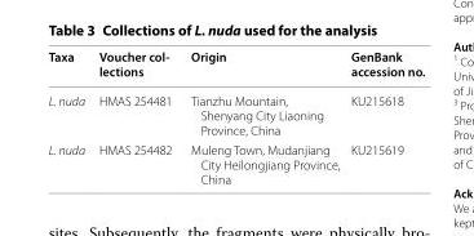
<table><thead><tr><td>Taxa</td><td>Voucher col- lections</td><td>Origin</td><td>GenBank accession no.</td></tr></thead><tbody><tr><td>L. nuda</td><td>HMAS 254481</td><td>Tianzhu Mountain, Shenyang City Liaoning Province, China</td><td>KU215618</td></tr><tr><td>L. nuda</td><td>HMAS 254482</td><td>Muleng Town, Mudanjiang City Heilongjiang Province, China</td><td>KU215619</td></tr></tbody></table>